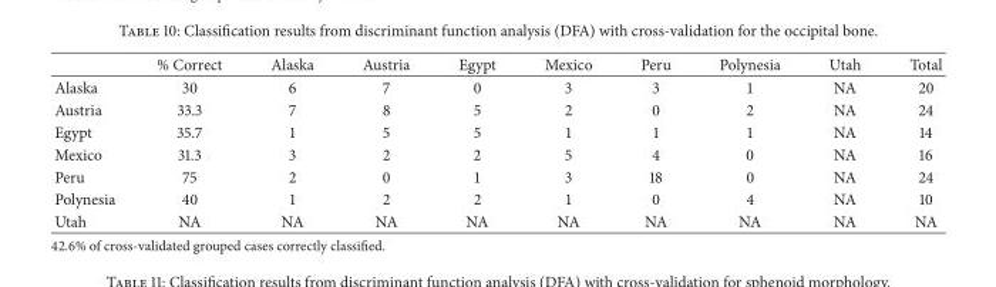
<table><thead><tr><td></td><td>% Correct</td><td>Alaska</td><td>Austria</td><td>Egypt</td><td>Mexico</td><td>Peru</td><td>Polynesia</td><td>Utah</td><td>Total</td></tr></thead><tbody><tr><td>Alaska</td><td>30</td><td>6</td><td>7</td><td>0</td><td>3</td><td>3</td><td>1</td><td>NA</td><td>20</td></tr><tr><td>Austria</td><td>33.3</td><td>7</td><td>8</td><td>5</td><td>2</td><td>0</td><td>2</td><td>NA</td><td>24</td></tr><tr><td>Egypt</td><td>35.7</td><td>1</td><td>5</td><td>5</td><td>1</td><td>1</td><td>1</td><td>NA</td><td>14</td></tr><tr><td>Mexico</td><td>31.3</td><td>3</td><td>2</td><td>2</td><td>5</td><td>4</td><td>0</td><td>NA</td><td>16</td></tr><tr><td>Peru</td><td>75</td><td>2</td><td>0</td><td>1</td><td>3</td><td>18</td><td>0</td><td>NA</td><td>24</td></tr><tr><td>Polynesia</td><td>40</td><td>1</td><td>2</td><td>2</td><td>1</td><td>0</td><td>4</td><td>NA</td><td>10</td></tr><tr><td>Utah</td><td>NA</td><td>NA</td><td>NA</td><td>NA</td><td>NA</td><td>NA</td><td>NA</td><td>NA</td><td>NA</td></tr></tbody></table>